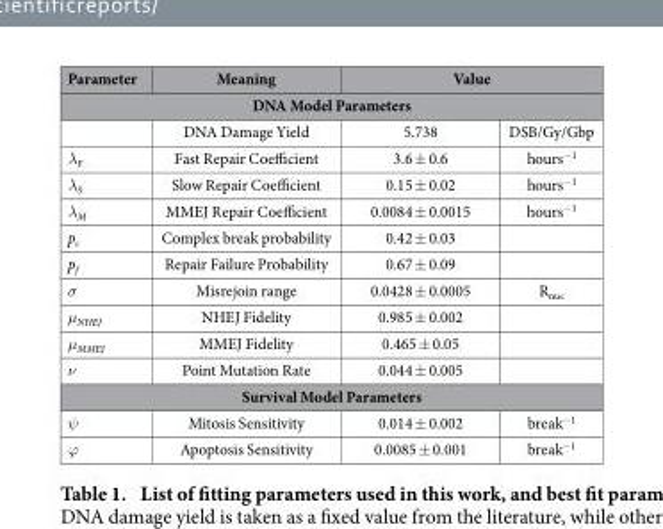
<table><thead><tr><td>Parameter</td><td>Meaning</td><td colspan="2">Value</td></tr><tr><td colspan="4">DNA Model Parameters</td></tr><tr><td></td><td>DNA Damage Yield</td><td>5.738</td><td>DSB/Gy/Gbp</td></tr></thead><tbody><tr><td>λ<sub>F</sub></td><td>Fast Repair Coefficient</td><td>3.6 ± 0.6</td><td>hours<sup>−1</sup></td></tr><tr><td>λ<sub>S</sub></td><td>Slow Repair Coefficient</td><td>0.15 ± 0.02</td><td>hours<sup>−1</sup></td></tr><tr><td>λ<sub>M</sub></td><td>MMEJ Repair Coefficient</td><td>0.0084 ± 0.0015</td><td>hours<sup>−1</sup></td></tr><tr><td>p<sub>c</sub></td><td>Complex break probability</td><td>0.42 ± 0.03</td><td></td></tr><tr><td>p<sub>f</sub></td><td>Repair Failure Probability</td><td>0.67 ± 0.09</td><td></td></tr><tr><td>σ</td><td>Misrejoin range</td><td>0.0428 ± 0.0005</td><td>R<sub>nuc</sub></td></tr><tr><td>μ<sub>NHEJ</sub></td><td>NHEJ Fidelity</td><td>0.985 ± 0.002</td><td></td></tr><tr><td>μ<sub>MMEJ</sub></td><td>MMEJ Fidelity</td><td>0.465 ± 0.05</td><td></td></tr><tr><td>ν</td><td>Point Mutation Rate</td><td>0.044 ± 0.005</td><td></td></tr><tr><td colspan="4">Survival Model Parameters</td></tr><tr><td>ψ</td><td>Mitosis Sensitivity</td><td>0.014 ± 0.002</td><td>break<sup>−1</sup></td></tr><tr><td>ϕ</td><td>Apoptosis Sensitivity</td><td>0.0085 ± 0.001</td><td>break<sup>−1</sup></td></tr></tbody></table>